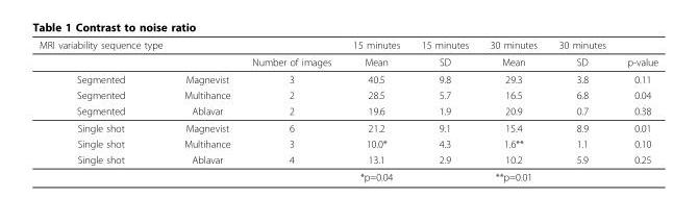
<table><thead><tr><td>MRI variability sequence type</td><td></td><td></td><td>15 minutes</td><td>15 minutes</td><td>30 minutes</td><td>30 minutes</td><td></td></tr></thead><tbody><tr><td></td><td></td><td>Number of images</td><td>Mean</td><td>SD</td><td>Mean</td><td>SD</td><td>p-value</td></tr><tr><td>Segmented</td><td>Magnevist</td><td>3</td><td>40.5</td><td>9.8</td><td>29.3</td><td>3.8</td><td>0.11</td></tr><tr><td>Segmented</td><td>Multihance</td><td>2</td><td>28.5</td><td>5.7</td><td>16.5</td><td>6.8</td><td>0.04</td></tr><tr><td>Segmented</td><td>Ablavar</td><td>2</td><td>19.6</td><td>1.9</td><td>20.9</td><td>0.7</td><td>0.38</td></tr><tr><td>Single shot</td><td>Magnevist</td><td>6</td><td>21.2</td><td>9.1</td><td>15.4</td><td>8.9</td><td>0.01</td></tr><tr><td>Single shot</td><td>Multihance</td><td>3</td><td>10.0*</td><td>4.3</td><td>1.6**</td><td>1.1</td><td>0.10</td></tr><tr><td rowspan="2">Single shot</td><td>Ablavar</td><td>4</td><td>13.1</td><td>2.9</td><td>10.2</td><td>5.9</td><td>0.25</td></tr><tr><td></td><td></td><td>*p=0.04</td><td></td><td>**p=0.01</td><td></td><td></td></tr></tbody></table>